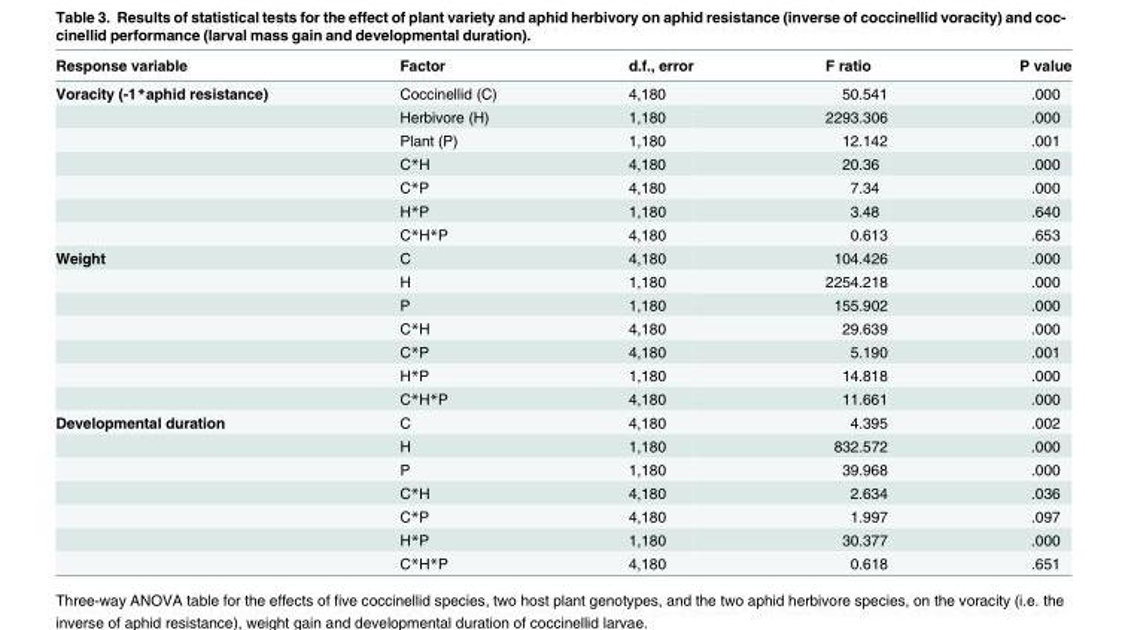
<table><thead><tr><td>Response variable</td><td>Factor</td><td>d.f., error</td><td>F ratio</td><td>P value</td></tr></thead><tbody><tr><td rowspan="7">Voracity (-1*aphid resistance)</td><td>Coccinellid (C)</td><td>4,180</td><td>50.541</td><td>.000</td></tr><tr><td>Herbivore (H)</td><td>1,180</td><td>2293.306</td><td>.000</td></tr><tr><td>Plant (P)</td><td>1,180</td><td>12.142</td><td>.001</td></tr><tr><td>C*H</td><td>4,180</td><td>20.36</td><td>.000</td></tr><tr><td>C*P</td><td>4,180</td><td>7.34</td><td>.000</td></tr><tr><td>H*P</td><td>1,180</td><td>3.48</td><td>.640</td></tr><tr><td>C*H*P</td><td>4,180</td><td>0.613</td><td>.653</td></tr><tr><td rowspan="7">Weight</td><td>C</td><td>4,180</td><td>104.426</td><td>.000</td></tr><tr><td>H</td><td>1,180</td><td>2254.218</td><td>.000</td></tr><tr><td>P</td><td>1,180</td><td>155.902</td><td>.000</td></tr><tr><td>C*H</td><td>4,180</td><td>29.639</td><td>.000</td></tr><tr><td>C*P</td><td>4,180</td><td>5.190</td><td>.001</td></tr><tr><td>H*P</td><td>1,180</td><td>14.818</td><td>.000</td></tr><tr><td>C*H*P</td><td>4,180</td><td>11.661</td><td>.000</td></tr><tr><td rowspan="7">Developmental duration</td><td>C</td><td>4,180</td><td>4.395</td><td>.002</td></tr><tr><td>H</td><td>1,180</td><td>832.572</td><td>.000</td></tr><tr><td>P</td><td>1,180</td><td>39.968</td><td>.000</td></tr><tr><td>C*H</td><td>4,180</td><td>2.634</td><td>.036</td></tr><tr><td>C*P</td><td>4,180</td><td>1.997</td><td>.097</td></tr><tr><td>H*P</td><td>1,180</td><td>30.377</td><td>.000</td></tr><tr><td>C*H*P</td><td>4,180</td><td>0.618</td><td>.651</td></tr></tbody></table>